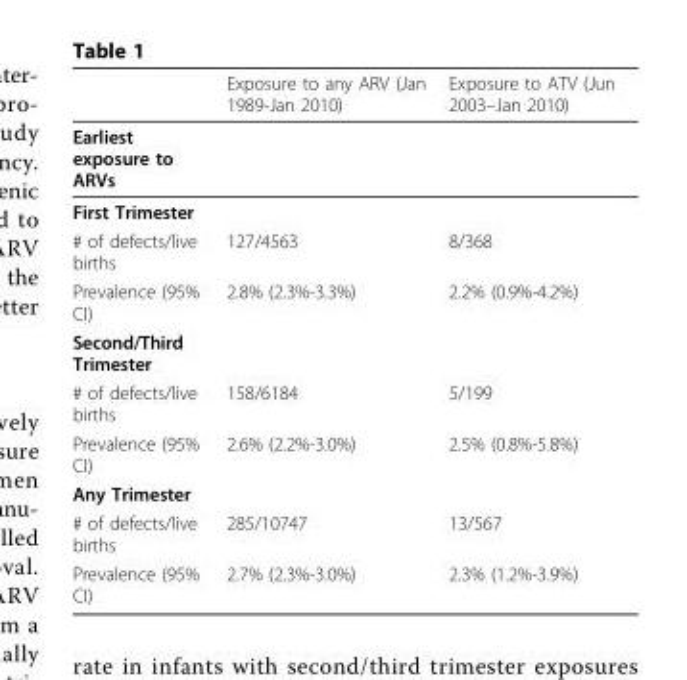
<table><thead><tr><td></td><td>Exposure to any ARV (Jan 1989-Jan 2010)</td><td>Exposure to ATV (Jun 2003–Jan 2010)</td></tr></thead><tbody><tr><td colspan="3">Earliest exposure to ARVs</td></tr><tr><td colspan="3">First Trimester</td></tr><tr><td># of defects/live births</td><td>127/4563</td><td>8/368</td></tr><tr><td>Prevalence (95% CI)</td><td>2.8% (2.3%-3.3%)</td><td>2.2% (0.9%-4.2%)</td></tr><tr><td colspan="3">Second/Third Trimester</td></tr><tr><td># of defects/live births</td><td>158/6184</td><td>5/199</td></tr><tr><td>Prevalence (95% CI)</td><td>2.6% (2.2%-3.0%)</td><td>2.5% (0.8%-5.8%)</td></tr><tr><td colspan="3">Any Trimester</td></tr><tr><td># of defects/live births</td><td>285/10747</td><td>13/567</td></tr><tr><td>Prevalence (95% CI)</td><td>2.7% (2.3%-3.0%)</td><td>2.3% (1.2%-3.9%)</td></tr></tbody></table>